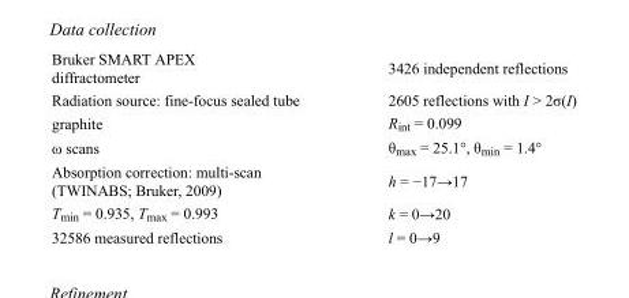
<table><tbody><tr><td>Bruker SMART APEX diffractometer</td><td>3426 independent reflections</td></tr><tr><td>Radiation source: fine-focus sealed tube</td><td>2605 reflections with I &gt; 2σ(I)</td></tr><tr><td>graphite</td><td>R<sub>int</sub> = 0.099</td></tr><tr><td>ω scans</td><td>θ<sub>max</sub> = 25.1°, θ<sub>min</sub> = 1.4°</td></tr><tr><td>Absorption correction: multi-scan (TWINABS; Bruker, 2009)</td><td>h = −17→17</td></tr><tr><td>T<sub>min</sub> = 0.935, T<sub>max</sub> = 0.993</td><td>k = 0→20</td></tr><tr><td>32586 measured reflections</td><td>l = 0→9</td></tr></tbody></table>